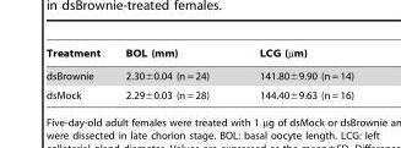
<table><thead><tr><td>Treatment</td><td>BOL (mm)</td><td>LCG (µm)</td></tr></thead><tbody><tr><td>dsBrownie</td><td>2.30±0.04 (n = 24)</td><td>141.80±9.90 (n = 14)</td></tr><tr><td>dsMock</td><td>2.29±0.03 (n = 28)</td><td>144.40±9.63 (n = 16)</td></tr></tbody></table>